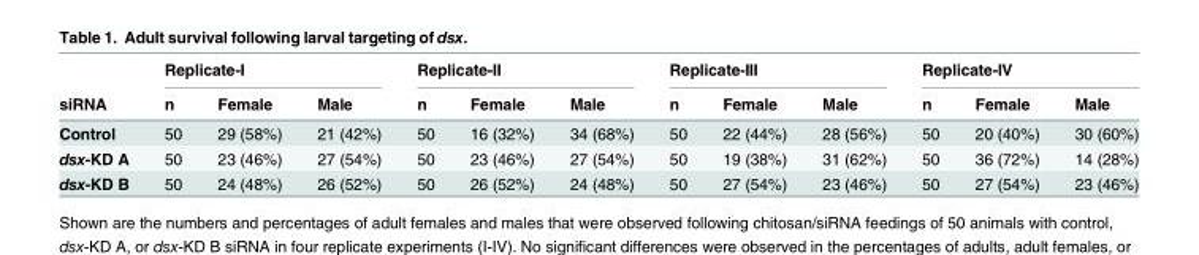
<table><thead><tr><td rowspan="2">siRNA</td><td colspan="3">Replicate-I</td><td colspan="3">Replicate-II</td><td colspan="3">Replicate-III</td><td colspan="3">Replicate-IV</td></tr><tr><td>n</td><td>Female</td><td>Male</td><td>n</td><td>Female</td><td>Male</td><td>n</td><td>Female</td><td>Male</td><td>n</td><td>Female</td><td>Male</td></tr></thead><tbody><tr><td>Control</td><td>50</td><td>29 (58%)</td><td>21 (42%)</td><td>50</td><td>16 (32%)</td><td>34 (68%)</td><td>50</td><td>22 (44%)</td><td>28 (56%)</td><td>50</td><td>20 (40%)</td><td>30 (60%)</td></tr><tr><td>dsx-KD A</td><td>50</td><td>23 (46%)</td><td>27 (54%)</td><td>50</td><td>23 (46%)</td><td>27 (54%)</td><td>50</td><td>19 (38%)</td><td>31 (62%)</td><td>50</td><td>36 (72%)</td><td>14 (28%)</td></tr><tr><td>dsx-KD B</td><td>50</td><td>24 (48%)</td><td>26 (52%)</td><td>50</td><td>26 (52%)</td><td>24 (48%)</td><td>50</td><td>27 (54%)</td><td>23 (46%)</td><td>50</td><td>27 (54%)</td><td>23 (46%)</td></tr></tbody></table>